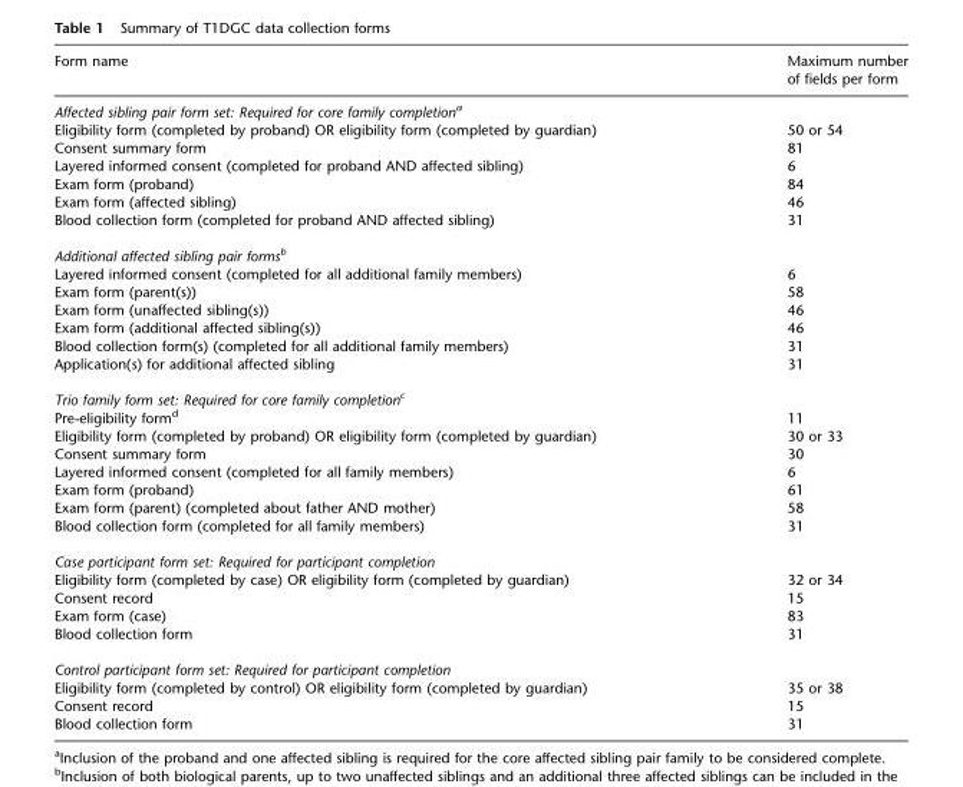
<table><thead><tr><td>Form name</td><td>Maximum number of fields per form</td></tr></thead><tbody><tr><td colspan="2">Affected sibling pair form set: Required for core family completion<sup>a</sup></td></tr><tr><td>Eligibility form (completed by proband) OR eligibility form (completed by guardian)</td><td>50 or 54</td></tr><tr><td>Consent summary form</td><td>81</td></tr><tr><td>Layered informed consent (completed for proband AND affected sibling)</td><td>6</td></tr><tr><td>Exam form (proband)</td><td>84</td></tr><tr><td>Exam form (affected sibling)</td><td>46</td></tr><tr><td>Blood collection form (completed for proband AND affected sibling)</td><td>31</td></tr><tr><td colspan="2">Additional affected sibling pair forms<sup>b</sup></td></tr><tr><td>Layered informed consent (completed for all additional family members)</td><td>6</td></tr><tr><td>Exam form (parent(s))</td><td>58</td></tr><tr><td>Exam form (unaffected sibling(s))</td><td>46</td></tr><tr><td>Exam form (additional affected sibling(s))</td><td>46</td></tr><tr><td>Blood collection form(s) (completed for all additional family members)</td><td>31</td></tr><tr><td>Application(s) for additional affected sibling</td><td>31</td></tr><tr><td colspan="2">Trio family form set: Required for core family completion<sup>c</sup></td></tr><tr><td>Pre-eligibility form<sup>d</sup></td><td>11</td></tr><tr><td>Eligibility form (completed by proband) OR eligibility form (completed by guardian)</td><td>30 or 33</td></tr><tr><td>Consent summary form</td><td>30</td></tr><tr><td>Layered informed consent (completed for all family members)</td><td>6</td></tr><tr><td>Exam form (proband)</td><td>61</td></tr><tr><td>Exam form (parent) (completed about father AND mother)</td><td>58</td></tr><tr><td>Blood collection form (completed for all family members)</td><td>31</td></tr><tr><td colspan="2">Case participant form set: Required for participant completion</td></tr><tr><td>Eligibility form (completed by case) OR eligibility form (completed by guardian)</td><td>32 or 34</td></tr><tr><td>Consent record</td><td>15</td></tr><tr><td>Exam form (case)</td><td>83</td></tr><tr><td>Blood collection form</td><td>31</td></tr><tr><td colspan="2">Control participant form set: Required for participant completion</td></tr><tr><td>Eligibility form (completed by control) OR eligibility form (completed by guardian)</td><td>35 or 38</td></tr><tr><td>Consent record</td><td>15</td></tr><tr><td>Blood collection form</td><td>31</td></tr></tbody></table>